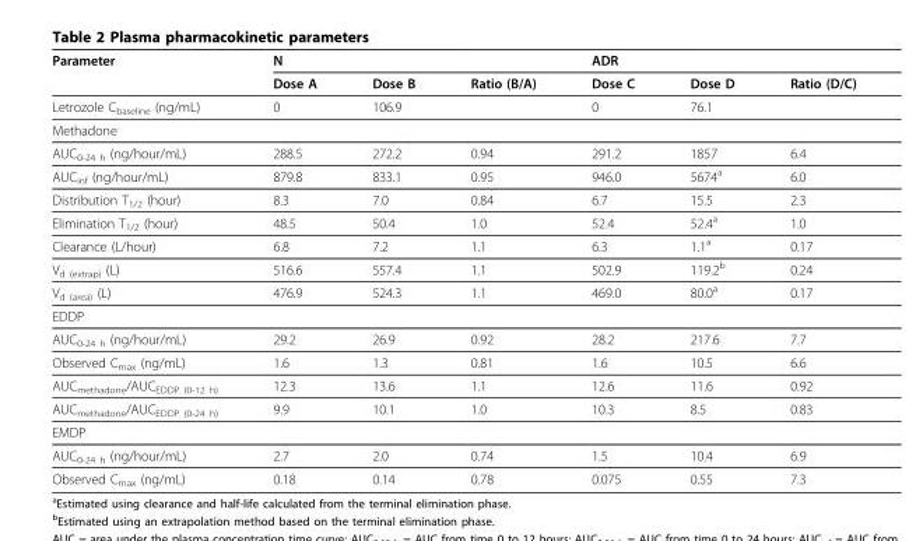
<table><thead><tr><td rowspan="2">Parameter</td><td colspan="3">N</td><td colspan="3">ADR</td></tr><tr><td>Dose A</td><td>Dose B</td><td>Ratio (B/A)</td><td>Dose C</td><td>Dose D</td><td>Ratio (D/C)</td></tr></thead><tbody><tr><td>Letrozole C<sub>baseline</sub> (ng/mL)</td><td>0</td><td>106.9</td><td></td><td>0</td><td>76.1</td><td></td></tr><tr><td colspan="7">Methadone</td></tr><tr><td>AUC<sub>0-24 h</sub> (ng/hour/mL)</td><td>288.5</td><td>272.2</td><td>0.94</td><td>291.2</td><td>1857</td><td>6.4</td></tr><tr><td>AUC<sub>inf</sub> (ng/hour/mL)</td><td>879.8</td><td>833.1</td><td>0.95</td><td>946.0</td><td>5674<sup>a</sup></td><td>6.0</td></tr><tr><td>Distribution T<sub>1/2</sub> (hour)</td><td>8.3</td><td>7.0</td><td>0.84</td><td>6.7</td><td>15.5</td><td>2.3</td></tr><tr><td>Elimination T<sub>1/2</sub> (hour)</td><td>48.5</td><td>50.4</td><td>1.0</td><td>52.4</td><td>52.4<sup>a</sup></td><td>1.0</td></tr><tr><td>Clearance (L/hour)</td><td>6.8</td><td>7.2</td><td>1.1</td><td>6.3</td><td>1.1<sup>a</sup></td><td>0.17</td></tr><tr><td>V<sub>d (extrap)</sub> (L)</td><td>516.6</td><td>557.4</td><td>1.1</td><td>502.9</td><td>119.2<sup>b</sup></td><td>0.24</td></tr><tr><td>V<sub>d (area)</sub> (L)</td><td>476.9</td><td>524.3</td><td>1.1</td><td>469.0</td><td>80.0<sup>a</sup></td><td>0.17</td></tr><tr><td colspan="7">EDDP</td></tr><tr><td>AUC<sub>0-24 h</sub> (ng/hour/mL)</td><td>29.2</td><td>26.9</td><td>0.92</td><td>28.2</td><td>217.6</td><td>7.7</td></tr><tr><td>Observed C<sub>max</sub> (ng/mL)</td><td>1.6</td><td>1.3</td><td>0.81</td><td>1.6</td><td>10.5</td><td>6.6</td></tr><tr><td>AUC<sub>methadone</sub>/AUC<sub>EDDP (0-12 h)</sub></td><td>12.3</td><td>13.6</td><td>1.1</td><td>12.6</td><td>11.6</td><td>0.92</td></tr><tr><td>AUC<sub>methadone</sub>/AUC<sub>EDDP (0-24 h)</sub></td><td>9.9</td><td>10.1</td><td>1.0</td><td>10.3</td><td>8.5</td><td>0.83</td></tr><tr><td colspan="7">EMDP</td></tr><tr><td>AUC<sub>0-24 h</sub> (ng/hour/mL)</td><td>2.7</td><td>2.0</td><td>0.74</td><td>1.5</td><td>10.4</td><td>6.9</td></tr><tr><td>Observed C<sub>max</sub> (ng/mL)</td><td>0.18</td><td>0.14</td><td>0.78</td><td>0.075</td><td>0.55</td><td>7.3</td></tr></tbody></table>